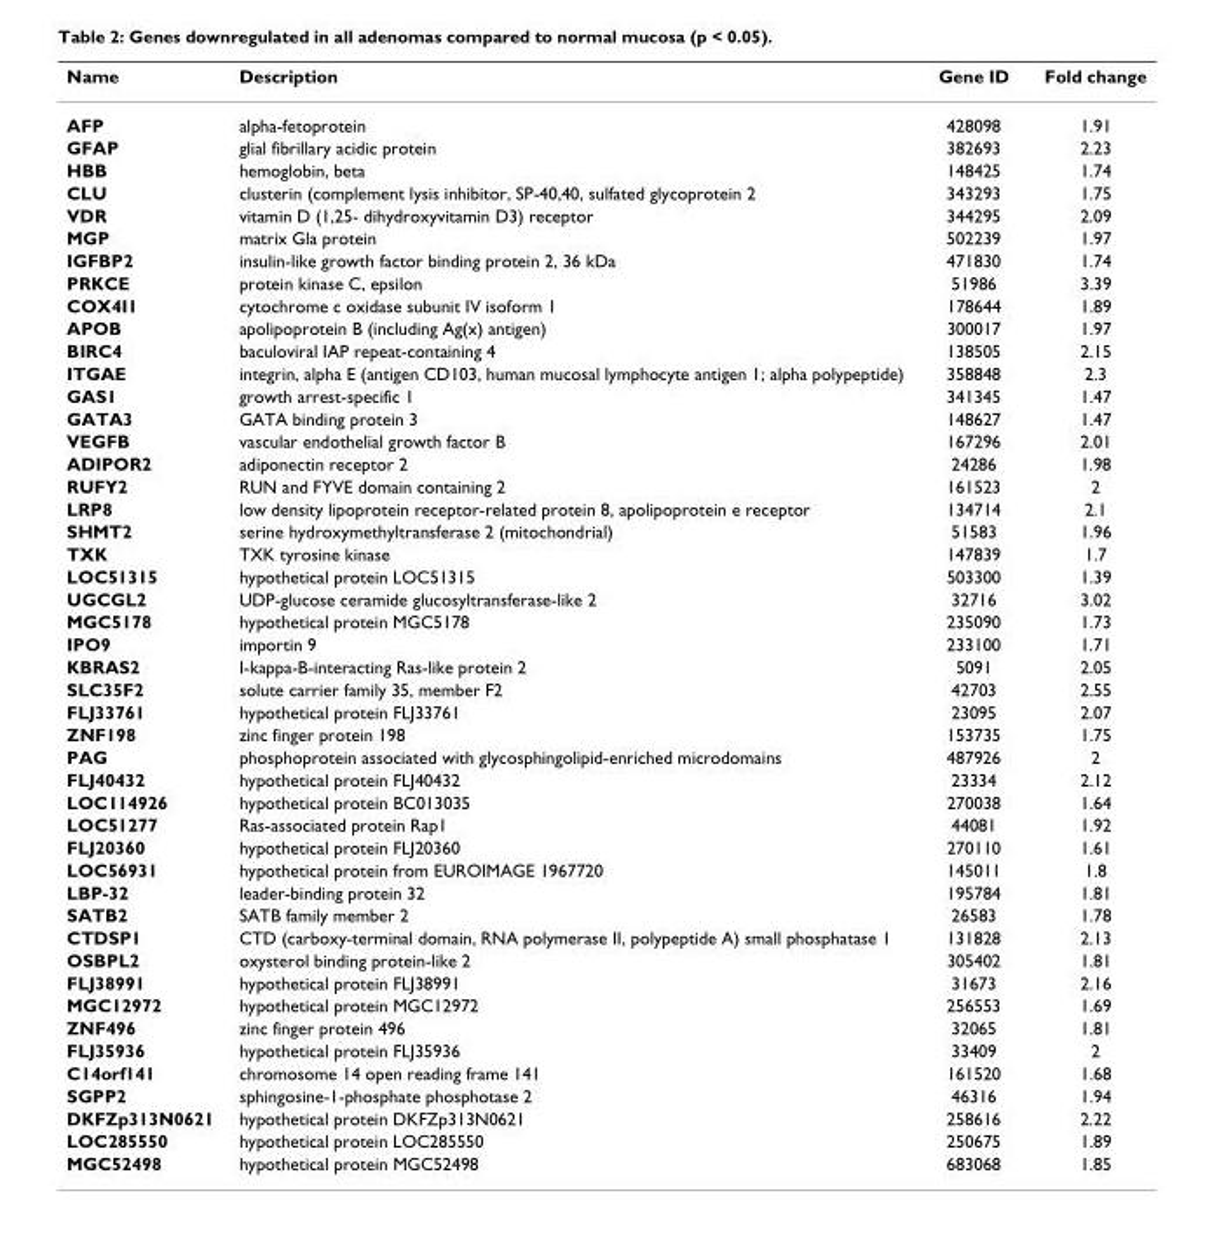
<table><thead><tr><td>Name</td><td>Description</td><td>Gene ID</td><td>Fold change</td></tr></thead><tbody><tr><td>AFP</td><td>alpha-fetoprotein</td><td>428098</td><td>1.91</td></tr><tr><td>GFAP</td><td>glial fibrillary acidic protein</td><td>382693</td><td>2.23</td></tr><tr><td>HBB</td><td>hemoglobin, beta</td><td>148425</td><td>1.74</td></tr><tr><td>CLU</td><td>clusterin (complement lysis inhibitor, SP-40,40, sulfated glycoprotein 2</td><td>343293</td><td>1.75</td></tr><tr><td>VDR</td><td>vitamin D (1,25- dihydroxyvitamin D3) receptor</td><td>344295</td><td>2.09</td></tr><tr><td>MGP</td><td>matrix Gla protein</td><td>502239</td><td>1.97</td></tr><tr><td>IGFBP2</td><td>insulin-like growth factor binding protein 2, 36 kDa</td><td>471830</td><td>1.74</td></tr><tr><td>PRKCE</td><td>protein kinase C, epsilon</td><td>51986</td><td>3.39</td></tr><tr><td>COX4I1</td><td>cytochrome c oxidase subunit IV isoform 1</td><td>178644</td><td>1.89</td></tr><tr><td>APOB</td><td>apolipoprotein B (including Ag(x) antigen)</td><td>300017</td><td>1.97</td></tr><tr><td>BIRC4</td><td>baculoviral IAP repeat-containing 4</td><td>138505</td><td>2.15</td></tr><tr><td>ITGAE</td><td>integrin, alpha E (antigen CD103, human mucosal lymphocyte antigen 1; alpha polypeptide)</td><td>358848</td><td>2.3</td></tr><tr><td>GAS1</td><td>growth arrest-specific 1</td><td>341345</td><td>1.47</td></tr><tr><td>GATA3</td><td>GATA binding protein 3</td><td>148627</td><td>1.47</td></tr><tr><td>VEGFB</td><td>vascular endothelial growth factor B</td><td>167296</td><td>2.01</td></tr><tr><td>ADIPOR2</td><td>adiponectin receptor 2</td><td>24286</td><td>1.98</td></tr><tr><td>RUFY2</td><td>RUN and FYVE domain containing 2</td><td>161523</td><td>2</td></tr><tr><td>LRP8</td><td>low density lipoprotein receptor-related protein 8, apolipoprotein e receptor</td><td>134714</td><td>2.1</td></tr><tr><td>SHMT2</td><td>serine hydroxymethyltransferase 2 (mitochondrial)</td><td>51583</td><td>1.96</td></tr><tr><td>TXK</td><td>TXK tyrosine kinase</td><td>147839</td><td>1.7</td></tr><tr><td>LOC51315</td><td>hypothetical protein LOC51315</td><td>503300</td><td>1.39</td></tr><tr><td>UGCGL2</td><td>UDP-glucose ceramide glucosyltransferase-like 2</td><td>32716</td><td>3.02</td></tr><tr><td>MGC5178</td><td>hypothetical protein MGC5178</td><td>235090</td><td>1.73</td></tr><tr><td>IPO9</td><td>importin 9</td><td>233100</td><td>1.71</td></tr><tr><td>KBRAS2</td><td>I-kappa-B-interacting Ras-like protein 2</td><td>5091</td><td>2.05</td></tr><tr><td>SLC35F2</td><td>solute carrier family 35, member F2</td><td>42703</td><td>2.55</td></tr><tr><td>FLJ33761</td><td>hypothetical protein FLJ33761</td><td>23095</td><td>2.07</td></tr><tr><td>ZNF198</td><td>zinc finger protein 198</td><td>153735</td><td>1.75</td></tr><tr><td>PAG</td><td>phosphoprotein associated with glycosphingolipid-enriched microdomains</td><td>487926</td><td>2</td></tr><tr><td>FLJ40432</td><td>hypothetical protein FLJ40432</td><td>23334</td><td>2.12</td></tr><tr><td>LOC114926</td><td>hypothetical protein BC013035</td><td>270038</td><td>1.64</td></tr><tr><td>LOC51277</td><td>Ras-associated protein Rap1</td><td>44081</td><td>1.92</td></tr><tr><td>FLJ20360</td><td>hypothetical protein FLJ20360</td><td>270110</td><td>1.61</td></tr><tr><td>LOC56931</td><td>hypothetical protein from EUROIMAGE 1967720</td><td>145011</td><td>1.8</td></tr><tr><td>LBP-32</td><td>leader-binding protein 32</td><td>195784</td><td>1.81</td></tr><tr><td>SATB2</td><td>SATB family member 2</td><td>26583</td><td>1.78</td></tr><tr><td>CTDSP1</td><td>CTD (carboxy-terminal domain, RNA polymerase II, polypeptide A) small phosphatase 1</td><td>131828</td><td>2.13</td></tr><tr><td>OSBPL2</td><td>oxysterol binding protein-like 2</td><td>305402</td><td>1.81</td></tr><tr><td>FLJ38991</td><td>hypothetical protein FLJ38991</td><td>31673</td><td>2.16</td></tr><tr><td>MGC12972</td><td>hypothetical protein MGC12972</td><td>256553</td><td>1.69</td></tr><tr><td>ZNF496</td><td>zinc finger protein 496</td><td>32065</td><td>1.81</td></tr><tr><td>FLJ35936</td><td>hypothetical protein FLJ35936</td><td>33409</td><td>2</td></tr><tr><td>C14orf141</td><td>chromosome 14 open reading frame 141</td><td>161520</td><td>1.68</td></tr><tr><td>SGPP2</td><td>sphingosine-1-phosphate phosphotase 2</td><td>46316</td><td>1.94</td></tr><tr><td>DKFZp313N0621</td><td>hypothetical protein DKFZp313N0621</td><td>258616</td><td>2.22</td></tr><tr><td>LOC285550</td><td>hypothetical protein LOC285550</td><td>250675</td><td>1.89</td></tr><tr><td>MGC52498</td><td>hypothetical protein MGC52498</td><td>683068</td><td>1.85</td></tr></tbody></table>